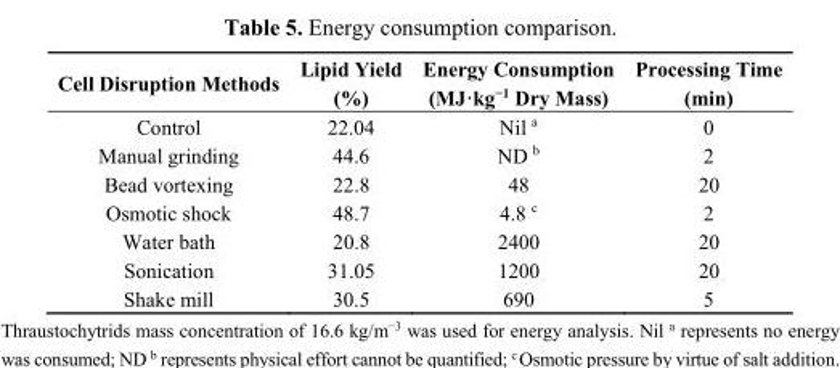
<table><thead><tr><td>Cell Disruption Methods</td><td>Lipid Yield (%)</td><td>Energy Consumption (MJ·kg<sup>−1</sup> Dry Mass)</td><td>Processing Time (min)</td></tr></thead><tbody><tr><td>Control</td><td>22.04</td><td>Nil <sup>a</sup></td><td>0</td></tr><tr><td>Manual grinding</td><td>44.6</td><td>ND <sup>b</sup></td><td>2</td></tr><tr><td>Bead vortexing</td><td>22.8</td><td>48</td><td>20</td></tr><tr><td>Osmotic shock</td><td>48.7</td><td>4.8 <sup>c</sup></td><td>2</td></tr><tr><td>Water bath</td><td>20.8</td><td>2400</td><td>20</td></tr><tr><td>Sonication</td><td>31.05</td><td>1200</td><td>20</td></tr><tr><td>Shake mill</td><td>30.5</td><td>690</td><td>5</td></tr></tbody></table>